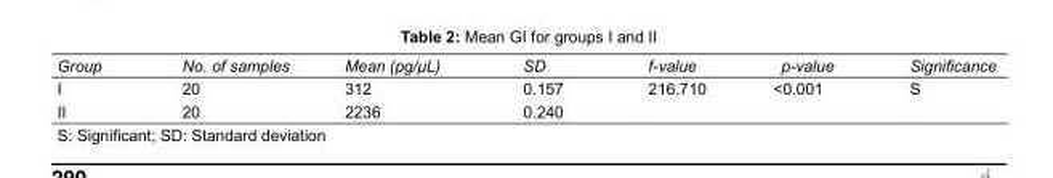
<table><tbody><tr><td>Group</td><td>No. of samples</td><td>Mean (pg/μL)</td><td>SD</td><td>f-value</td><td>p-value</td><td>Significance</td></tr><tr><td>I</td><td>20</td><td>312</td><td>0.157</td><td>216.710</td><td>&lt;0.001</td><td>S</td></tr><tr><td>II</td><td>20</td><td>2236</td><td>0.240</td><td></td><td></td><td></td></tr></tbody></table>